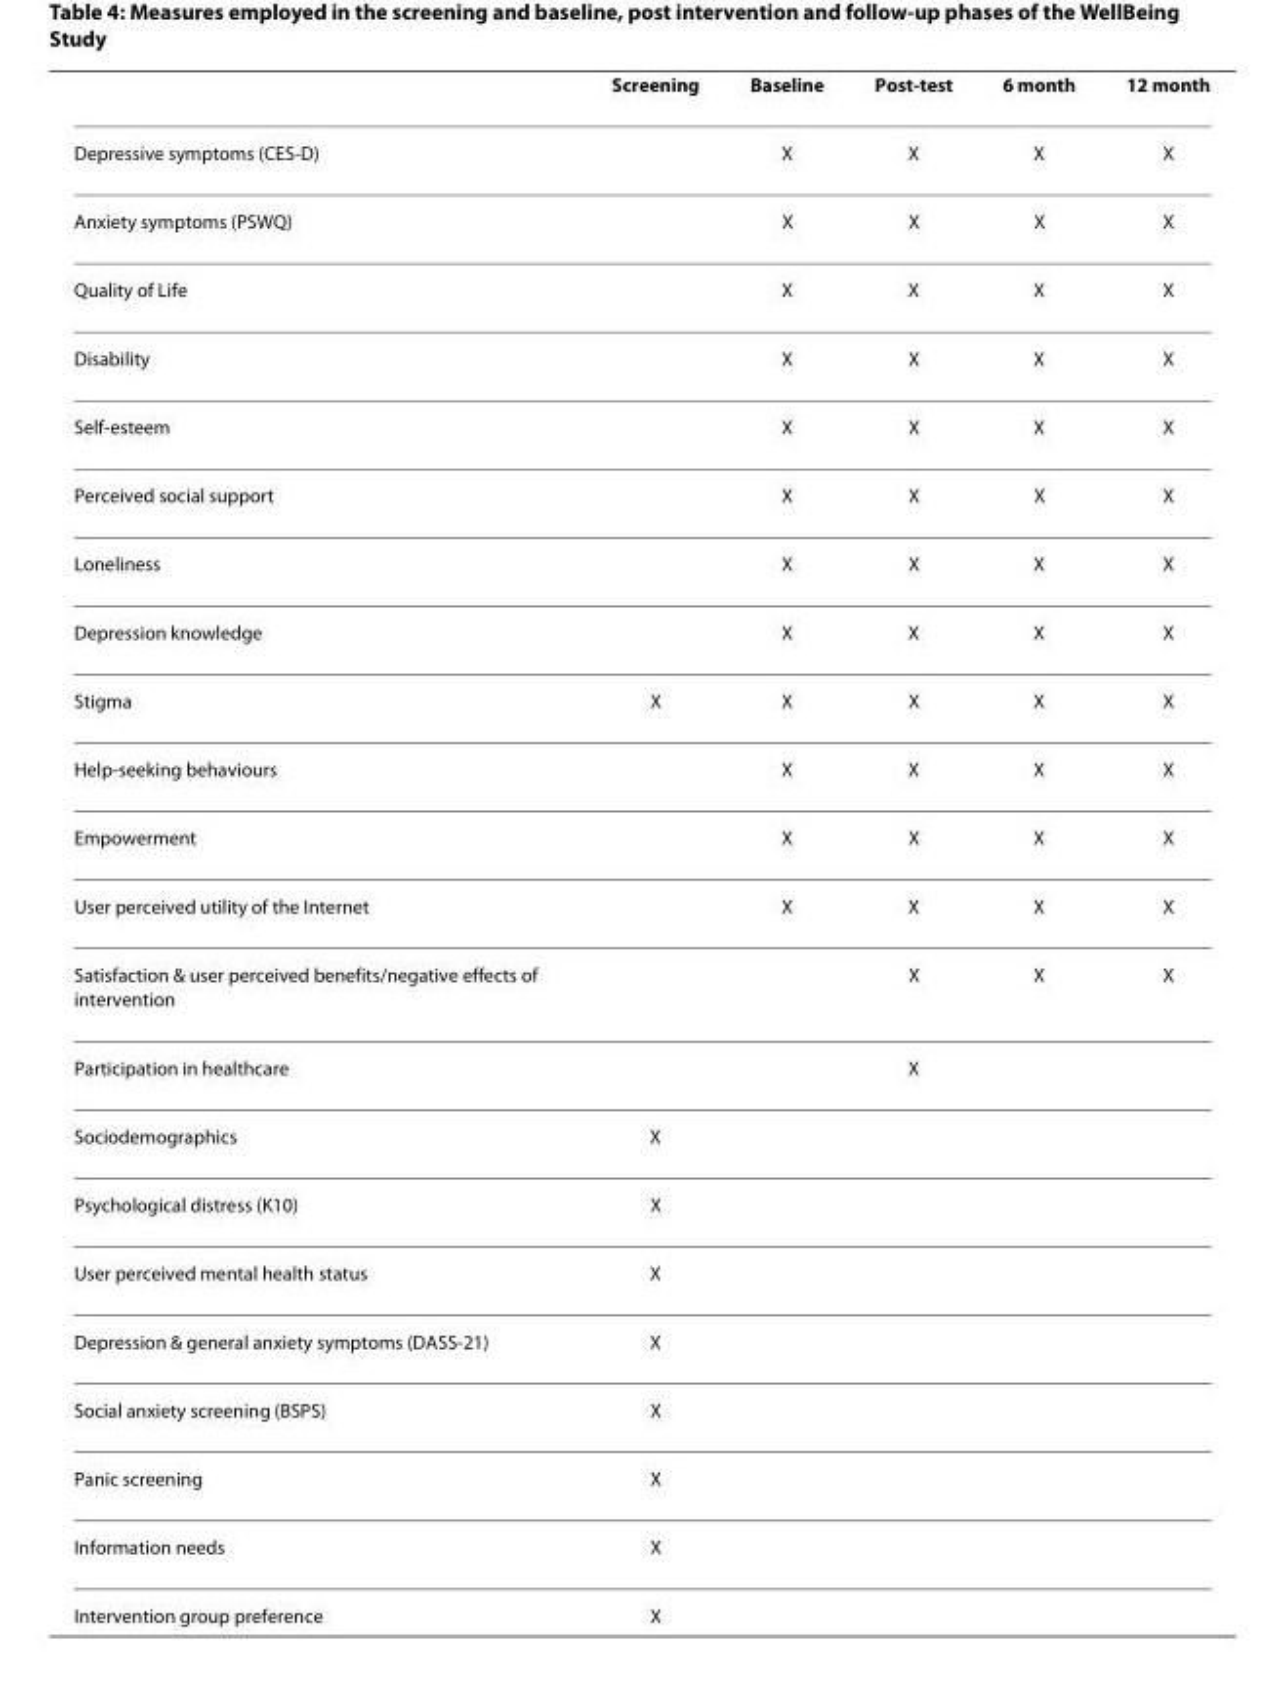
<table><thead><tr><td></td><td>Screening</td><td>Baseline</td><td>Post-test</td><td>6 month</td><td>12 month</td></tr></thead><tbody><tr><td>Depressive symptoms (CES-D)</td><td></td><td>X</td><td>X</td><td>X</td><td>X</td></tr><tr><td>Anxiety symptoms (PSWQ)</td><td></td><td>X</td><td>X</td><td>X</td><td>X</td></tr><tr><td>Quality of Life</td><td></td><td>X</td><td>X</td><td>X</td><td>X</td></tr><tr><td>Disability</td><td></td><td>X</td><td>X</td><td>X</td><td>X</td></tr><tr><td>Self-esteem</td><td></td><td>X</td><td>X</td><td>X</td><td>X</td></tr><tr><td>Perceived social support</td><td></td><td>X</td><td>X</td><td>X</td><td>X</td></tr><tr><td>Loneliness</td><td></td><td>X</td><td>X</td><td>X</td><td>X</td></tr><tr><td>Depression knowledge</td><td></td><td>X</td><td>X</td><td>X</td><td>X</td></tr><tr><td>Stigma</td><td>X</td><td>X</td><td>X</td><td>X</td><td>X</td></tr><tr><td>Help-seeking behaviours</td><td></td><td>X</td><td>X</td><td>X</td><td>X</td></tr><tr><td>Empowerment</td><td></td><td>X</td><td>X</td><td>X</td><td>X</td></tr><tr><td>User perceived utility of the Internet</td><td></td><td>X</td><td>X</td><td>X</td><td>X</td></tr><tr><td>Satisfaction &amp; user perceived benefits/negative effects of intervention</td><td></td><td></td><td>X</td><td>X</td><td>X</td></tr><tr><td>Participation in healthcare</td><td></td><td></td><td>X</td><td></td><td></td></tr><tr><td>Sociodemographics</td><td>X</td><td></td><td></td><td></td><td></td></tr><tr><td>Psychological distress (K10)</td><td>X</td><td></td><td></td><td></td><td></td></tr><tr><td>User perceived mental health status</td><td>X</td><td></td><td></td><td></td><td></td></tr><tr><td>Depression &amp; general anxiety symptoms (DASS-21)</td><td>X</td><td></td><td></td><td></td><td></td></tr><tr><td>Social anxiety screening (BSPS)</td><td>X</td><td></td><td></td><td></td><td></td></tr><tr><td>Panic screening</td><td>X</td><td></td><td></td><td></td><td></td></tr><tr><td>Information needs</td><td>X</td><td></td><td></td><td></td><td></td></tr><tr><td>Intervention group preference</td><td>X</td><td></td><td></td><td></td><td></td></tr></tbody></table>